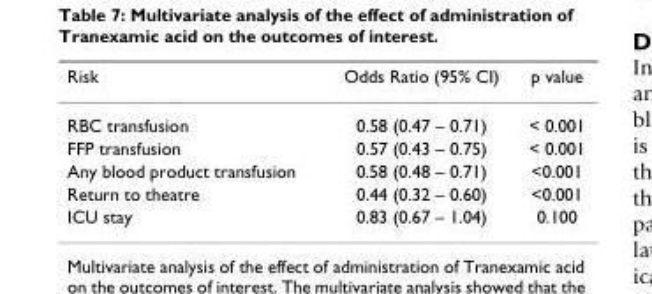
<table><thead><tr><td>Risk</td><td>Odds Ratio (95% CI)</td><td>p value</td></tr></thead><tbody><tr><td>RBC transfusion</td><td>0.58 (0.47 – 0.71)</td><td>&lt; 0.001</td></tr><tr><td>FFP transfusion</td><td>0.57 (0.43 – 0.75)</td><td>&lt; 0.001</td></tr><tr><td>Any blood product transfusion</td><td>0.58 (0.48 – 0.71)</td><td>&lt;0.001</td></tr><tr><td>Return to theatre</td><td>0.44 (0.32 – 0.60)</td><td>&lt;0.001</td></tr><tr><td>ICU stay</td><td>0.83 (0.67 – 1.04)</td><td>0.100</td></tr></tbody></table>